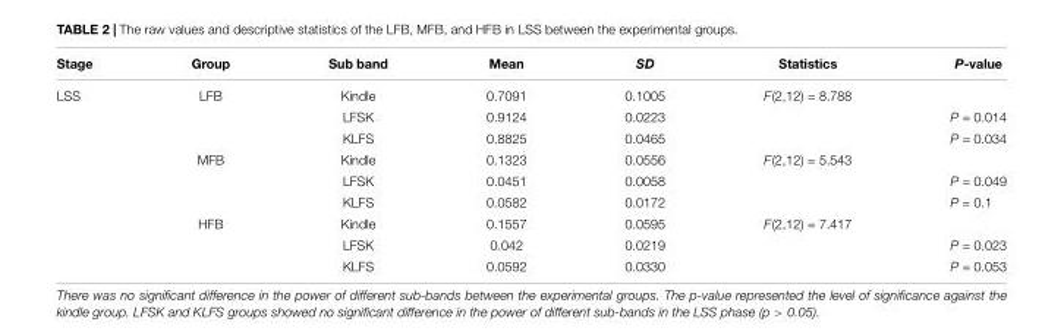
<table><thead><tr><td>Stage</td><td>Group</td><td>Sub band</td><td>Mean</td><td>SD</td><td>Statistics</td><td>P-value</td></tr></thead><tbody><tr><td rowspan="9">LSS</td><td>LFB</td><td>Kindle</td><td>0.7091</td><td>0.1005</td><td>F(2,12) = 8.788</td><td></td></tr><tr><td></td><td>LFSK</td><td>0.9124</td><td>0.0223</td><td></td><td>P = 0.014</td></tr><tr><td></td><td>KLFS</td><td>0.8825</td><td>0.0465</td><td></td><td>P = 0.034</td></tr><tr><td>MFB</td><td>Kindle</td><td>0.1323</td><td>0.0556</td><td>F(2,12) = 5.543</td><td></td></tr><tr><td></td><td>LFSK</td><td>0.0451</td><td>0.0058</td><td></td><td>P = 0.049</td></tr><tr><td></td><td>KLFS</td><td>0.0582</td><td>0.0172</td><td></td><td>P = 0.1</td></tr><tr><td>HFB</td><td>Kindle</td><td>0.1557</td><td>0.0595</td><td>F(2,12) = 7.417</td><td></td></tr><tr><td></td><td>LFSK</td><td>0.042</td><td>0.0219</td><td></td><td>P = 0.023</td></tr><tr><td></td><td>KLFS</td><td>0.0592</td><td>0.0330</td><td></td><td>P = 0.053</td></tr></tbody></table>